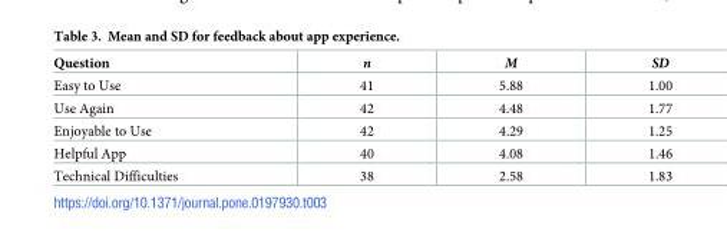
<table><thead><tr><td>Question</td><td>n</td><td>M</td><td>SD</td></tr></thead><tbody><tr><td>Easy to Use</td><td>41</td><td>5.88</td><td>1.00</td></tr><tr><td>Use Again</td><td>42</td><td>4.48</td><td>1.77</td></tr><tr><td>Enjoyable to Use</td><td>42</td><td>4.29</td><td>1.25</td></tr><tr><td>Helpful App</td><td>40</td><td>4.08</td><td>1.46</td></tr><tr><td>Technical Difficulties</td><td>38</td><td>2.58</td><td>1.83</td></tr></tbody></table>